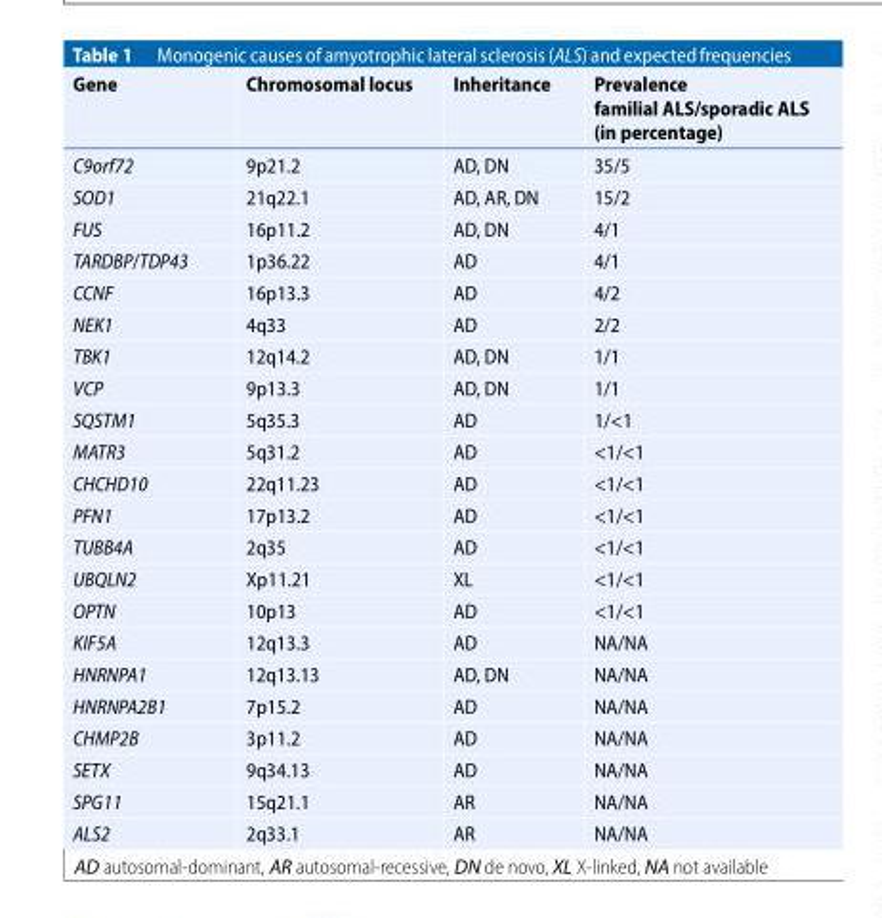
<table><thead><tr><td>Gene</td><td>Chromosomal locus</td><td>Inheritance</td><td>Prevalence familial ALS/sporadic ALS (in percentage)</td></tr></thead><tbody><tr><td>C9orf72</td><td>9p21.2</td><td>AD, DN</td><td>35/5</td></tr><tr><td>SOD1</td><td>21q22.1</td><td>AD, AR, DN</td><td>15/2</td></tr><tr><td>FUS</td><td>16p11.2</td><td>AD, DN</td><td>4/1</td></tr><tr><td>TARDBP/TDP43</td><td>1p36.22</td><td>AD</td><td>4/1</td></tr><tr><td>CCNF</td><td>16p13.3</td><td>AD</td><td>4/2</td></tr><tr><td>NEK1</td><td>4q33</td><td>AD</td><td>2/2</td></tr><tr><td>TBK1</td><td>12q14.2</td><td>AD, DN</td><td>1/1</td></tr><tr><td>VCP</td><td>9p13.3</td><td>AD, DN</td><td>1/1</td></tr><tr><td>SQSTM1</td><td>5q35.3</td><td>AD</td><td>1/&lt;1</td></tr><tr><td>MATR3</td><td>5q31.2</td><td>AD</td><td>&lt;1/&lt;1</td></tr><tr><td>CHCHD10</td><td>22q11.23</td><td>AD</td><td>&lt;1/&lt;1</td></tr><tr><td>PFN1</td><td>17p13.2</td><td>AD</td><td>&lt;1/&lt;1</td></tr><tr><td>TUBB4A</td><td>2q35</td><td>AD</td><td>&lt;1/&lt;1</td></tr><tr><td>UBQLN2</td><td>Xp11.21</td><td>XL</td><td>&lt;1/&lt;1</td></tr><tr><td>OPTN</td><td>10p13</td><td>AD</td><td>&lt;1/&lt;1</td></tr><tr><td>KIF5A</td><td>12q13.3</td><td>AD</td><td>NA/NA</td></tr><tr><td>HNRNPA1</td><td>12q13.13</td><td>AD, DN</td><td>NA/NA</td></tr><tr><td>HNRNPA2B1</td><td>7p15.2</td><td>AD</td><td>NA/NA</td></tr><tr><td>CHMP2B</td><td>3p11.2</td><td>AD</td><td>NA/NA</td></tr><tr><td>SETX</td><td>9q34.13</td><td>AD</td><td>NA/NA</td></tr><tr><td>SPG11</td><td>15q21.1</td><td>AR</td><td>NA/NA</td></tr><tr><td>ALS2</td><td>2q33.1</td><td>AR</td><td>NA/NA</td></tr></tbody></table>